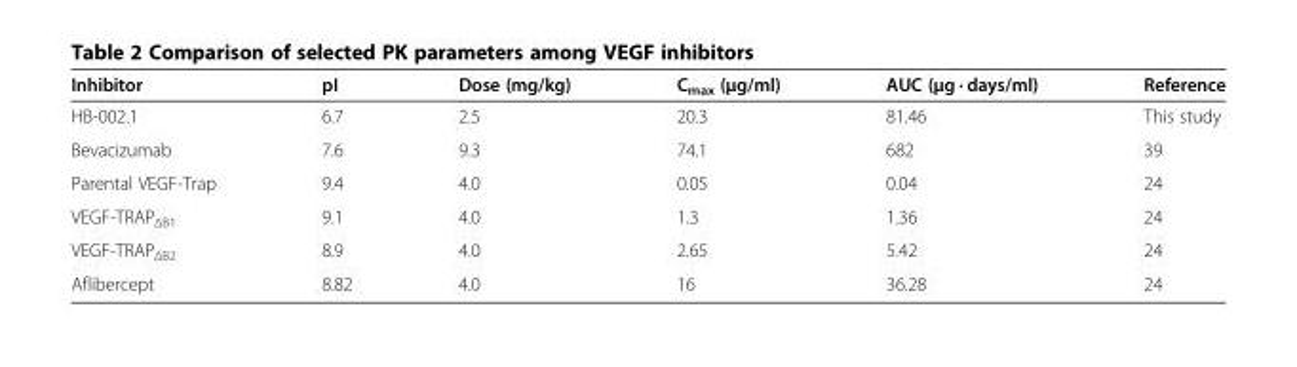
<table><thead><tr><td>Inhibitor</td><td>pI</td><td>Dose (mg/kg)</td><td>C<sub>max</sub> (μg/ml)</td><td>AUC (μg · days/ml)</td><td>Reference</td></tr></thead><tbody><tr><td>HB-002.1</td><td>6.7</td><td>2.5</td><td>20.3</td><td>81.46</td><td>This study</td></tr><tr><td>Bevacizumab</td><td>7.6</td><td>9.3</td><td>74.1</td><td>682</td><td>39</td></tr><tr><td>Parental VEGF-Trap</td><td>9.4</td><td>4.0</td><td>0.05</td><td>0.04</td><td>24</td></tr><tr><td>VEGF-TRAPΔB1</td><td>9.1</td><td>4.0</td><td>1.3</td><td>1.36</td><td>24</td></tr><tr><td>VEGF-TRAPΔB2</td><td>8.9</td><td>4.0</td><td>2.65</td><td>5.42</td><td>24</td></tr><tr><td>Aflibercept</td><td>8.82</td><td>4.0</td><td>16</td><td>36.28</td><td>24</td></tr></tbody></table>